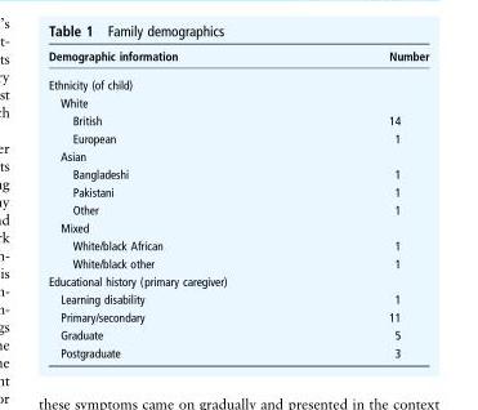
<table><thead><tr><td>Demographic information</td><td>Number</td></tr></thead><tbody><tr><td colspan="2">Ethnicity (of child)</td></tr><tr><td colspan="2">White</td></tr><tr><td>British</td><td>14</td></tr><tr><td>European</td><td>1</td></tr><tr><td colspan="2">Asian</td></tr><tr><td>Bangladeshi</td><td>1</td></tr><tr><td>Pakistani</td><td>1</td></tr><tr><td>Other</td><td>1</td></tr><tr><td colspan="2">Mixed</td></tr><tr><td>White/black African</td><td>1</td></tr><tr><td>White/black other</td><td>1</td></tr><tr><td colspan="2">Educational history (primary caregiver)</td></tr><tr><td>Learning disability</td><td>1</td></tr><tr><td>Primary/secondary</td><td>11</td></tr><tr><td>Graduate</td><td>5</td></tr><tr><td>Postgraduate</td><td>3</td></tr></tbody></table>